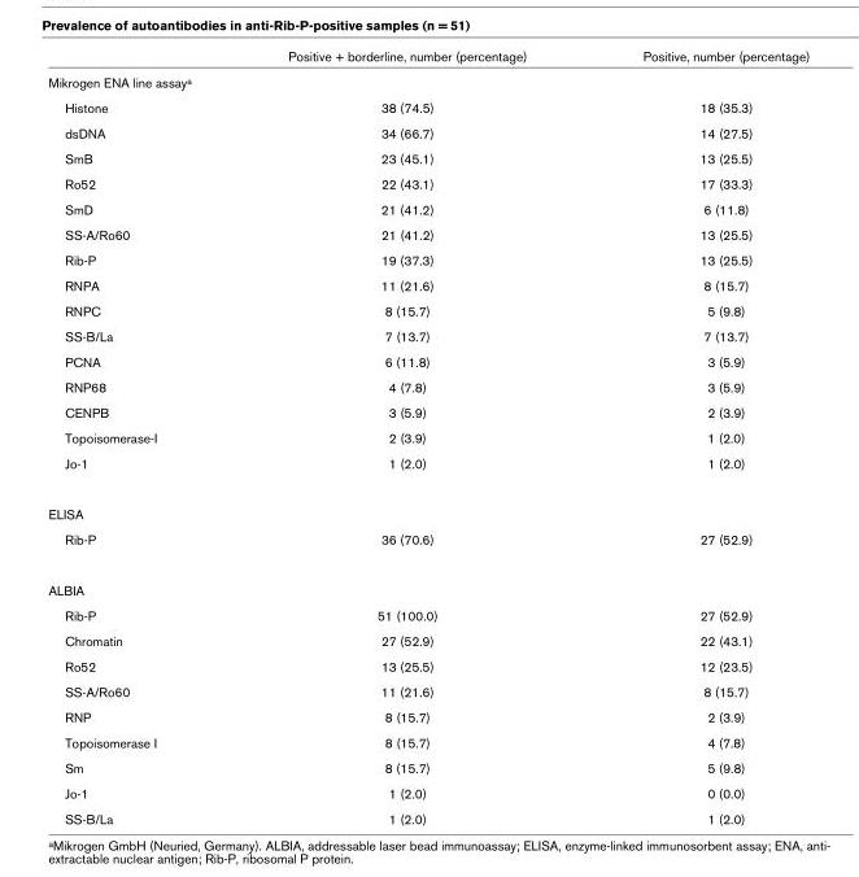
<table><thead><tr><td></td><td>Positive + borderline, number (percentage)</td><td>Positive, number (percentage)</td></tr></thead><tbody><tr><td colspan="3">Mikrogen ENA line assay<sup>a</sup></td></tr><tr><td>Histone</td><td>38 (74.5)</td><td>18 (35.3)</td></tr><tr><td>dsDNA</td><td>34 (66.7)</td><td>14 (27.5)</td></tr><tr><td>SmB</td><td>23 (45.1)</td><td>13 (25.5)</td></tr><tr><td>Ro52</td><td>22 (43.1)</td><td>17 (33.3)</td></tr><tr><td>SmD</td><td>21 (41.2)</td><td>6 (11.8)</td></tr><tr><td>SS-A/Ro60</td><td>21 (41.2)</td><td>13 (25.5)</td></tr><tr><td>Rib-P</td><td>19 (37.3)</td><td>13 (25.5)</td></tr><tr><td>RNPA</td><td>11 (21.6)</td><td>8 (15.7)</td></tr><tr><td>RNPC</td><td>8 (15.7)</td><td>5 (9.8)</td></tr><tr><td>SS-B/La</td><td>7 (13.7)</td><td>7 (13.7)</td></tr><tr><td>PCNA</td><td>6 (11.8)</td><td>3 (5.9)</td></tr><tr><td>RNP68</td><td>4 (7.8)</td><td>3 (5.9)</td></tr><tr><td>CENPB</td><td>3 (5.9)</td><td>2 (3.9)</td></tr><tr><td>Topoisomerase-I</td><td>2 (3.9)</td><td>1 (2.0)</td></tr><tr><td>Jo-1</td><td>1 (2.0)</td><td>1 (2.0)</td></tr><tr><td colspan="3">ELISA</td></tr><tr><td>Rib-P</td><td>36 (70.6)</td><td>27 (52.9)</td></tr><tr><td colspan="3">ALBIA</td></tr><tr><td>Rib-P</td><td>51 (100.0)</td><td>27 (52.9)</td></tr><tr><td>Chromatin</td><td>27 (52.9)</td><td>22 (43.1)</td></tr><tr><td>Ro52</td><td>13 (25.5)</td><td>12 (23.5)</td></tr><tr><td>SS-A/Ro60</td><td>11 (21.6)</td><td>8 (15.7)</td></tr><tr><td>RNP</td><td>8 (15.7)</td><td>2 (3.9)</td></tr><tr><td>Topoisomerase I</td><td>8 (15.7)</td><td>4 (7.8)</td></tr><tr><td>Sm</td><td>8 (15.7)</td><td>5 (9.8)</td></tr><tr><td>Jo-1</td><td>1 (2.0)</td><td>0 (0.0)</td></tr><tr><td>SS-B/La</td><td>1 (2.0)</td><td>1 (2.0)</td></tr></tbody></table>